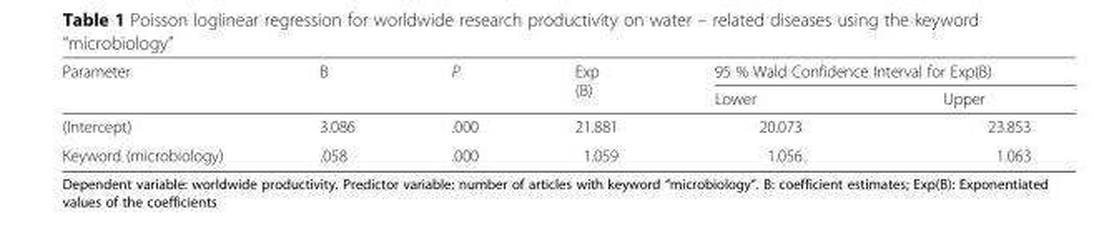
<table><thead><tr><td rowspan="2">Parameter</td><td rowspan="2">B</td><td rowspan="2">P</td><td rowspan="2">Exp (B)</td><td colspan="2">95 % Wald Confidence Interval for Exp(B)</td></tr><tr><td>Lower</td><td>Upper</td></tr></thead><tbody><tr><td>(Intercept)</td><td>3.086</td><td>.000</td><td>21.881</td><td>20.073</td><td>23.853</td></tr><tr><td>Keyword (microbiology)</td><td>.058</td><td>.000</td><td>1.059</td><td>1.056</td><td>1.063</td></tr></tbody></table>